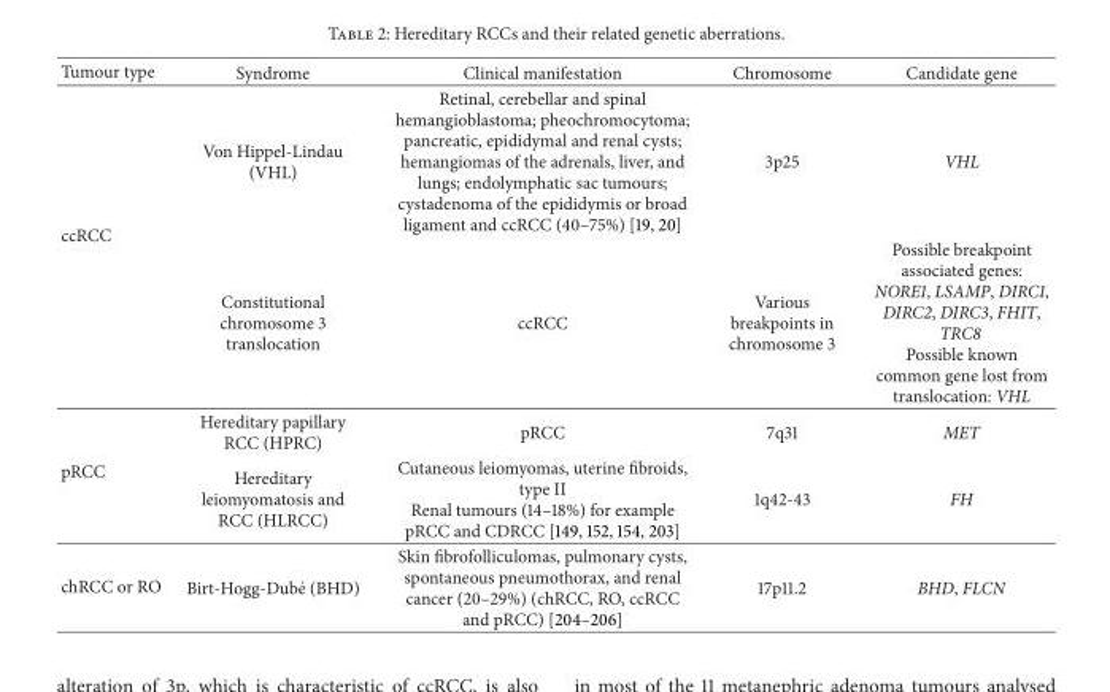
<table><thead><tr><td>Tumour type</td><td>Syndrome</td><td>Clinical manifestation</td><td>Chromosome</td><td>Candidate gene</td></tr></thead><tbody><tr><td rowspan="2">ccRCC</td><td>Von Hippel-Lindau (VHL)</td><td>Retinal, cerebellar and spinal hemangioblastoma; pheochromocytoma; pancreatic, epididymal and renal cysts; hemangiomas of the adrenals, liver, and lungs; endolymphatic sac tumours; cystadenoma of the epididymis or broad ligament and ccRCC (40–75%) [19, 20]</td><td>3p25</td><td>VHL</td></tr><tr><td>Constitutional chromosome 3 translocation</td><td>ccRCC</td><td>Various breakpoints in chromosome 3</td><td>Possible breakpoint associated genes: NORE1, LSAMP, DIRC1, DIRC2, DIRC3, FHIT, TRC8 Possible known common gene lost from translocation: VHL</td></tr><tr><td rowspan="2">pRCC</td><td>Hereditary papillary RCC (HPRC)</td><td>pRCC</td><td>7q31</td><td>MET</td></tr><tr><td>Hereditary leiomyomatosis and RCC (HLRCC)</td><td>Cutaneous leiomyomas, uterine fibroids, type II Renal tumours (14–18%) for example pRCC and CDRCC [149, 152, 154, 203]</td><td>1q42-43</td><td>FH</td></tr><tr><td>chRCC or RO</td><td>Birt-Hogg-Dub´e (BHD)</td><td>Skin fibrofolliculomas, pulmonary cysts, spontaneous pneumothorax, and renal cancer (20–29%) (chRCC, RO, ccRCC and pRCC) [204–206]</td><td>17p11.2</td><td>BHD, FLCN</td></tr></tbody></table>